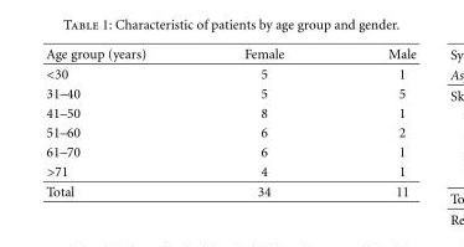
<table><thead><tr><td>Age group (years)</td><td>Female</td><td>Male</td></tr></thead><tbody><tr><td>&lt;30</td><td>5</td><td>1</td></tr><tr><td>31–40</td><td>5</td><td>5</td></tr><tr><td>41–50</td><td>8</td><td>1</td></tr><tr><td>51–60</td><td>6</td><td>2</td></tr><tr><td>61–70</td><td>6</td><td>1</td></tr><tr><td>&gt;71</td><td>4</td><td>1</td></tr><tr><td>Total</td><td>34</td><td>11</td></tr></tbody></table>